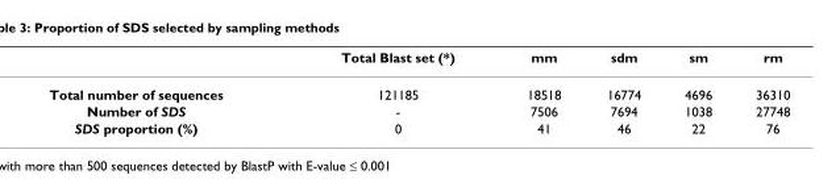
<table><thead><tr><td></td><td>Total Blast set (*)</td><td>mm</td><td>sdm</td><td>sm</td><td>rm</td></tr></thead><tbody><tr><td>Total number of sequences</td><td>121185</td><td>18518</td><td>16774</td><td>4696</td><td>36310</td></tr><tr><td>Number of SDS</td><td>-</td><td>7506</td><td>7694</td><td>1038</td><td>27748</td></tr><tr><td>SDS proportion (%)</td><td>0</td><td>41</td><td>46</td><td>22</td><td>76</td></tr></tbody></table>